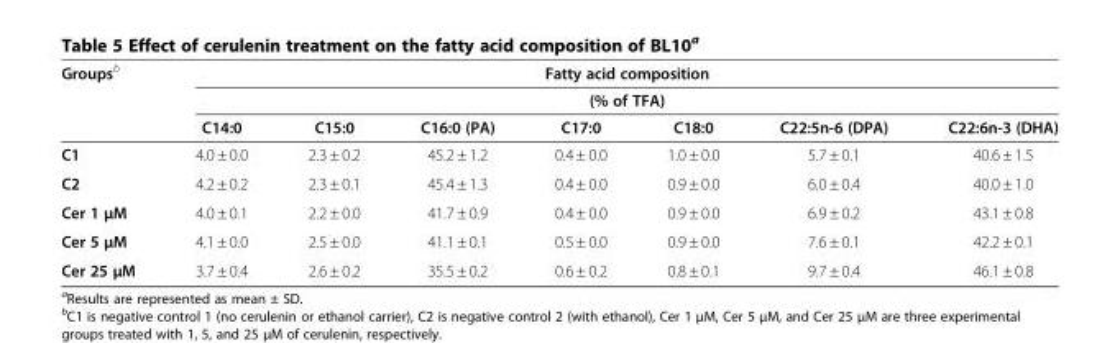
<table><thead><tr><td rowspan="3">Groups<sup>b</sup></td><td rowspan="2" colspan="7">Fatty acid composition (% of TFA)</td></tr><tr></tr><tr><td>C14:0</td><td>C15:0</td><td>C16:0 (PA)</td><td>C17:0</td><td>C18:0</td><td>C22:5n-6 (DPA)</td><td>C22:6n-3 (DHA)</td></tr></thead><tbody><tr><td>C1</td><td>4.0 ± 0.0</td><td>2.3 ± 0.2</td><td>45.2 ± 1.2</td><td>0.4 ± 0.0</td><td>1.0 ± 0.0</td><td>5.7 ± 0.1</td><td>40.6 ± 1.5</td></tr><tr><td>C2</td><td>4.2 ± 0.2</td><td>2.3 ± 0.1</td><td>45.4 ± 1.3</td><td>0.4 ± 0.0</td><td>0.9 ± 0.0</td><td>6.0 ± 0.4</td><td>40.0 ± 1.0</td></tr><tr><td>Cer 1 μM</td><td>4.0 ± 0.1</td><td>2.2 ± 0.0</td><td>41.7 ± 0.9</td><td>0.4 ± 0.0</td><td>0.9 ± 0.0</td><td>6.9 ± 0.2</td><td>43.1 ± 0.8</td></tr><tr><td>Cer 5 μM</td><td>4.1 ± 0.0</td><td>2.5 ± 0.0</td><td>41.1 ± 0.1</td><td>0.5 ± 0.0</td><td>0.9 ± 0.0</td><td>7.6 ± 0.1</td><td>42.2 ± 0.1</td></tr><tr><td>Cer 25 μM</td><td>3.7 ± 0.4</td><td>2.6 ± 0.2</td><td>35.5 ± 0.2</td><td>0.6 ± 0.2</td><td>0.8 ± 0.1</td><td>9.7 ± 0.4</td><td>46.1 ± 0.8</td></tr></tbody></table>